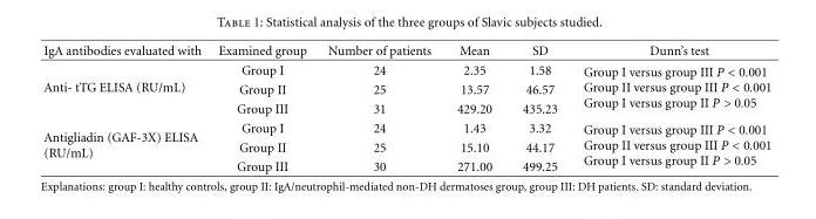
<table><thead><tr><td>IgA antibodies evaluated with</td><td>Examined group</td><td>Number of patients</td><td>Mean</td><td>SD</td><td>Dunn’s test</td></tr></thead><tbody><tr><td rowspan="3">Anti- tTG ELISA (RU/mL)</td><td>Group I</td><td>24</td><td>2.35</td><td>1.58</td><td rowspan="3">Group I versus group III P &lt; 0.001 Group II versus group III P &lt; 0.001 Group I versus group II P &gt; 0.05</td></tr><tr><td>Group II</td><td>25</td><td>13.57</td><td>46.57</td></tr><tr><td>Group III</td><td>31</td><td>429.20</td><td>435.23</td></tr><tr><td rowspan="3">Antigliadin (GAF-3X) ELISA (RU/mL)</td><td>Group I</td><td>24</td><td>1.43</td><td>3.32</td><td rowspan="3">Group I versus group III P &lt; 0.001 Group II versus group III P &lt; 0.001 Group I versus group II P &gt; 0.05</td></tr><tr><td>Group II</td><td>25</td><td>15.10</td><td>44.17</td></tr><tr><td>Group III</td><td>30</td><td>271.00</td><td>499.25</td></tr></tbody></table>